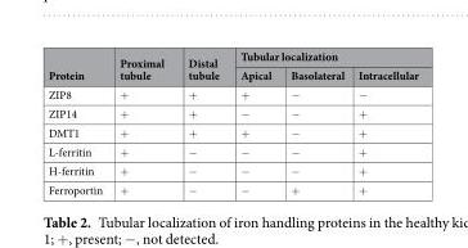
<table><thead><tr><td rowspan="2">Protein</td><td rowspan="2">Proximal tubule</td><td rowspan="2">Distal tubule</td><td colspan="3">Tubular localization</td></tr><tr><td>Apical</td><td>Basolateral</td><td>Intracellular</td></tr></thead><tbody><tr><td>ZIP8</td><td>+</td><td>+</td><td>+</td><td>−</td><td>−</td></tr><tr><td>ZIP14</td><td>+</td><td>+</td><td>−</td><td>−</td><td>+</td></tr><tr><td>DMT1</td><td>+</td><td>+</td><td>+</td><td>−</td><td>+</td></tr><tr><td>L-ferritin</td><td>+</td><td>−</td><td>−</td><td>−</td><td>+</td></tr><tr><td>H-ferritin</td><td>+</td><td>−</td><td>−</td><td>−</td><td>+</td></tr><tr><td>Ferroportin</td><td>+</td><td>−</td><td>−</td><td>+</td><td>+</td></tr></tbody></table>